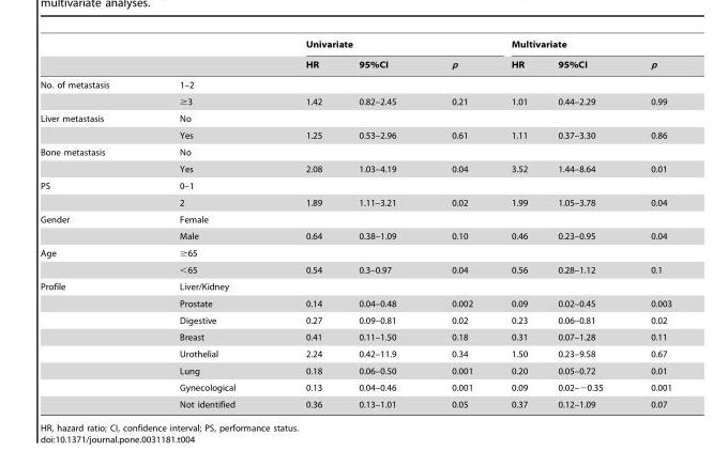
<table><thead><tr><td rowspan="2"></td><td rowspan="2"></td><td colspan="3">Univariate</td><td colspan="3">Multivariate</td></tr><tr><td>HR</td><td>95%CI</td><td>p</td><td>HR</td><td>95%CI</td><td>p</td></tr></thead><tbody><tr><td rowspan="2">No. of metastasis</td><td>1–2</td><td></td><td></td><td></td><td></td><td></td><td></td></tr><tr><td>≥3</td><td>1.42</td><td>0.82–2.45</td><td>0.21</td><td>1.01</td><td>0.44–2.29</td><td>0.99</td></tr><tr><td rowspan="2">Liver metastasis</td><td>No</td><td></td><td></td><td></td><td></td><td></td><td></td></tr><tr><td>Yes</td><td>1.25</td><td>0.53–2.96</td><td>0.61</td><td>1.11</td><td>0.37–3.30</td><td>0.86</td></tr><tr><td rowspan="2">Bone metastasis</td><td>No</td><td></td><td></td><td></td><td></td><td></td><td></td></tr><tr><td>Yes</td><td>2.08</td><td>1.03–4.19</td><td>0.04</td><td>3.52</td><td>1.44–8.64</td><td>0.01</td></tr><tr><td rowspan="2">PS</td><td>0–1</td><td></td><td></td><td></td><td></td><td></td><td></td></tr><tr><td>2</td><td>1.89</td><td>1.11–3.21</td><td>0.02</td><td>1.99</td><td>1.05–3.78</td><td>0.04</td></tr><tr><td rowspan="2">Gender</td><td>Female</td><td></td><td></td><td></td><td></td><td></td><td></td></tr><tr><td>Male</td><td>0.64</td><td>0.38–1.09</td><td>0.10</td><td>0.46</td><td>0.23–0.95</td><td>0.04</td></tr><tr><td rowspan="2">Age</td><td>≥65</td><td></td><td></td><td></td><td></td><td></td><td></td></tr><tr><td>&lt;65</td><td>0.54</td><td>0.3–0.97</td><td>0.04</td><td>0.56</td><td>0.28–1.12</td><td>0.1</td></tr><tr><td rowspan="8">Profile</td><td>Liver/Kidney</td><td></td><td></td><td></td><td></td><td></td><td></td></tr><tr><td>Prostate</td><td>0.14</td><td>0.04–0.48</td><td>0.002</td><td>0.09</td><td>0.02–0.45</td><td>0.003</td></tr><tr><td>Digestive</td><td>0.27</td><td>0.09–0.81</td><td>0.02</td><td>0.23</td><td>0.06–0.81</td><td>0.02</td></tr><tr><td>Breast</td><td>0.41</td><td>0.11–1.50</td><td>0.18</td><td>0.31</td><td>0.07–1.28</td><td>0.11</td></tr><tr><td>Urothelial</td><td>2.24</td><td>0.42–11.9</td><td>0.34</td><td>1.50</td><td>0.23–9.58</td><td>0.67</td></tr><tr><td>Lung</td><td>0.18</td><td>0.06–0.50</td><td>0.001</td><td>0.20</td><td>0.05–0.72</td><td>0.01</td></tr><tr><td>Gynecological</td><td>0.13</td><td>0.04–0.46</td><td>0.001</td><td>0.09</td><td>0.02–−0.35</td><td>0.001</td></tr><tr><td>Not identified</td><td>0.36</td><td>0.13–1.01</td><td>0.05</td><td>0.37</td><td>0.12–1.09</td><td>0.07</td></tr></tbody></table>